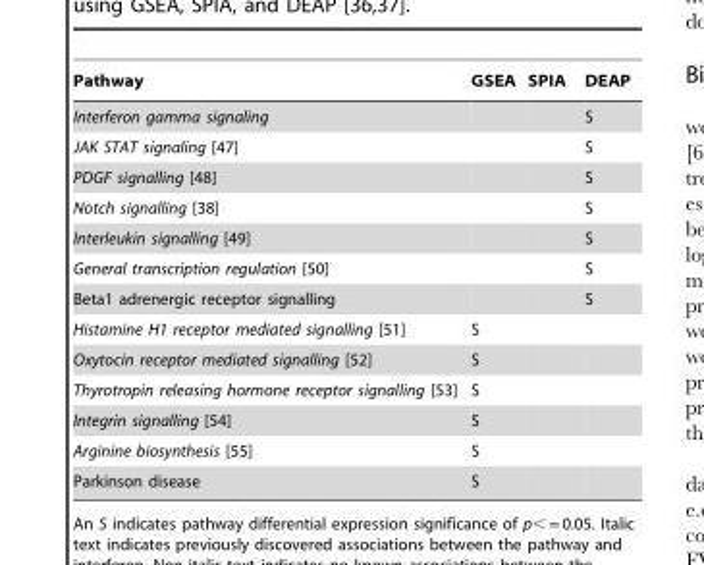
<table><thead><tr><td>Pathway</td><td>GSEA</td><td>SPIA</td><td>DEAP</td></tr></thead><tbody><tr><td>Interferon gamma signaling</td><td></td><td></td><td>S</td></tr><tr><td>JAK STAT signaling [47]</td><td></td><td></td><td>S</td></tr><tr><td>PDGF signalling [48]</td><td></td><td></td><td>S</td></tr><tr><td>Notch signalling [38]</td><td></td><td></td><td>S</td></tr><tr><td>Interleukin signalling [49]</td><td></td><td></td><td>S</td></tr><tr><td>General transcription regulation [50]</td><td></td><td></td><td>S</td></tr><tr><td>Beta1 adrenergic receptor signalling</td><td></td><td></td><td>S</td></tr><tr><td>Histamine H1 receptor mediated signalling [51]</td><td>S</td><td></td><td></td></tr><tr><td>Oxytocin receptor mediated signalling [52]</td><td>S</td><td></td><td></td></tr><tr><td>Thyrotropin releasing hormone receptor signalling [53]</td><td>S</td><td></td><td></td></tr><tr><td>Integrin signalling [54]</td><td>S</td><td></td><td></td></tr><tr><td>Arginine biosynthesis [55]</td><td>S</td><td></td><td></td></tr><tr><td>Parkinson disease</td><td>S</td><td></td><td></td></tr></tbody></table>